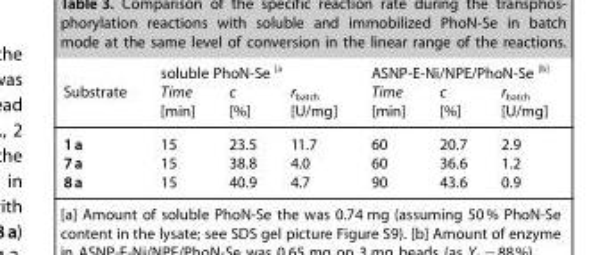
<table><thead><tr><td rowspan="2">Substrate</td><td colspan="3">soluble PhoN-Se <sup>[a</sup></td><td colspan="3">ASNP-E-Ni/NPE/PhoN-Se <sup>[b]</sup></td></tr><tr><td>Time [min]</td><td>c [%]</td><td>r<sub>batch</sub> [U/mg]</td><td>Time [min]</td><td>c [%]</td><td>r<sub>batch</sub> [U/mg]</td></tr></thead><tbody><tr><td>1a</td><td>15</td><td>23.5</td><td>11.7</td><td>60</td><td>20.7</td><td>2.9</td></tr><tr><td>7a</td><td>15</td><td>38.8</td><td>4.0</td><td>60</td><td>36.6</td><td>1.2</td></tr><tr><td>8a</td><td>15</td><td>40.9</td><td>4.7</td><td>90</td><td>43.6</td><td>0.9</td></tr></tbody></table>